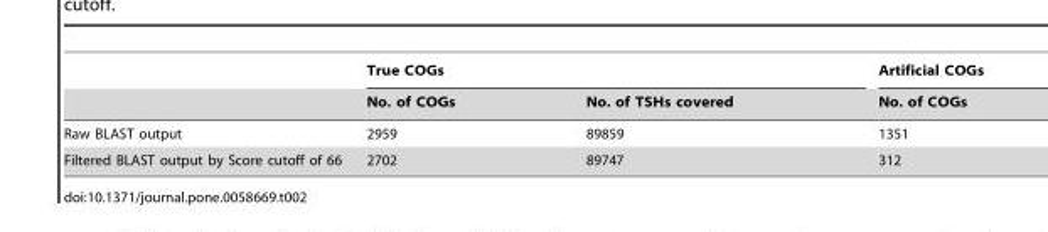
<table><thead><tr><td rowspan="2"></td><td colspan="2">True COGs</td><td rowspan="2">Artificial COGs No. of COGs</td></tr><tr><td>No. of COGs</td><td>No. of TSHs covered</td></tr></thead><tbody><tr><td>Raw BLAST output</td><td>2959</td><td>89859</td><td>1351</td></tr><tr><td>Filtered BLAST output by Score cutoff of 66</td><td>2702</td><td>89747</td><td>312</td></tr></tbody></table>